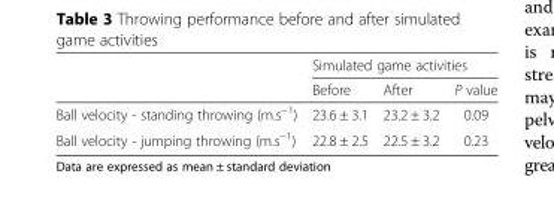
<table><thead><tr><td rowspan="2"></td><td colspan="3">Simulated game activities</td></tr><tr><td>Before</td><td>After</td><td>P value</td></tr></thead><tbody><tr><td>Ball velocity - standing throwing (m.s<sup>−1</sup>)</td><td>23.6 ± 3.1</td><td>23.2 ± 3.2</td><td>0.09</td></tr><tr><td>Ball velocity - jumping throwing (m.s<sup>−1</sup>)</td><td>22.8 ± 2.5</td><td>22.5 ± 3.2</td><td>0.23</td></tr></tbody></table>